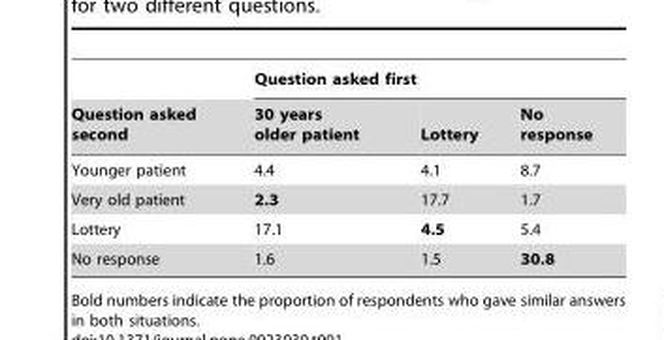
<table><thead><tr><td rowspan="2">Question asked second</td><td colspan="3">Question asked first</td></tr><tr><td>30 years older patient</td><td>Lottery</td><td>No response</td></tr></thead><tbody><tr><td>Younger patient</td><td>4.4</td><td>4.1</td><td>8.7</td></tr><tr><td>Very old patient</td><td>2.3</td><td>17.7</td><td>1.7</td></tr><tr><td>Lottery</td><td>17.1</td><td>4.5</td><td>5.4</td></tr><tr><td>No response</td><td>1.6</td><td>1.5</td><td>30.8</td></tr></tbody></table>